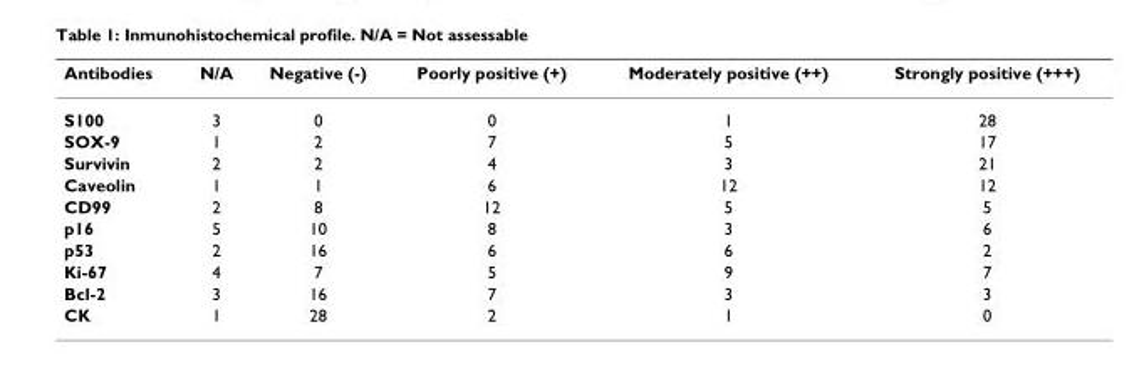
<table><thead><tr><td>Antibodies</td><td>N/A</td><td>Negative (-)</td><td>Poorly positive (+)</td><td>Moderately positive (++)</td><td>Strongly positive (+++)</td></tr></thead><tbody><tr><td>S100</td><td>3</td><td>0</td><td>0</td><td>1</td><td>28</td></tr><tr><td>SOX-9</td><td>1</td><td>2</td><td>7</td><td>5</td><td>17</td></tr><tr><td>Survivin</td><td>2</td><td>2</td><td>4</td><td>3</td><td>21</td></tr><tr><td>Caveolin</td><td>1</td><td>1</td><td>6</td><td>12</td><td>12</td></tr><tr><td>CD99</td><td>2</td><td>8</td><td>12</td><td>5</td><td>5</td></tr><tr><td>p16</td><td>5</td><td>10</td><td>8</td><td>3</td><td>6</td></tr><tr><td>p53</td><td>2</td><td>16</td><td>6</td><td>6</td><td>2</td></tr><tr><td>Ki-67</td><td>4</td><td>7</td><td>5</td><td>9</td><td>7</td></tr><tr><td>Bcl-2</td><td>3</td><td>16</td><td>7</td><td>3</td><td>3</td></tr><tr><td>CK</td><td>1</td><td>28</td><td>2</td><td>1</td><td>0</td></tr></tbody></table>